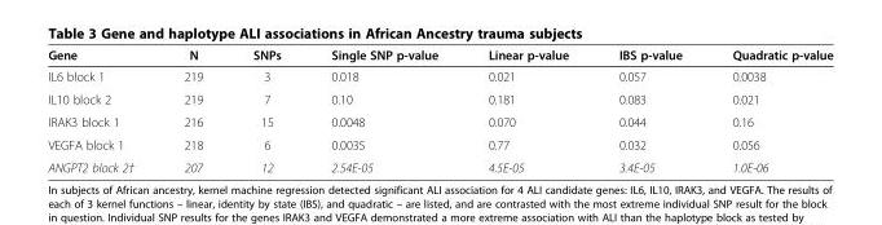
<table><thead><tr><td>Gene</td><td>N</td><td>SNPs</td><td>Single SNP p-value</td><td>Linear p-value</td><td>IBS p-value</td><td>Quadratic p-value</td></tr></thead><tbody><tr><td>IL6 block 1</td><td>219</td><td>3</td><td>0.018</td><td>0.021</td><td>0.057</td><td>0.0038</td></tr><tr><td>IL10 block 2</td><td>219</td><td>7</td><td>0.10</td><td>0.181</td><td>0.083</td><td>0.021</td></tr><tr><td>IRAK3 block 1</td><td>216</td><td>15</td><td>0.0048</td><td>0.070</td><td>0.044</td><td>0.16</td></tr><tr><td>VEGFA block 1</td><td>218</td><td>6</td><td>0.0035</td><td>0.77</td><td>0.032</td><td>0.056</td></tr><tr><td>ANGPT2 block 2†</td><td>207</td><td>12</td><td>2.54E-05</td><td>4.5E-05</td><td>3.4E-05</td><td>1.0E-06</td></tr></tbody></table>